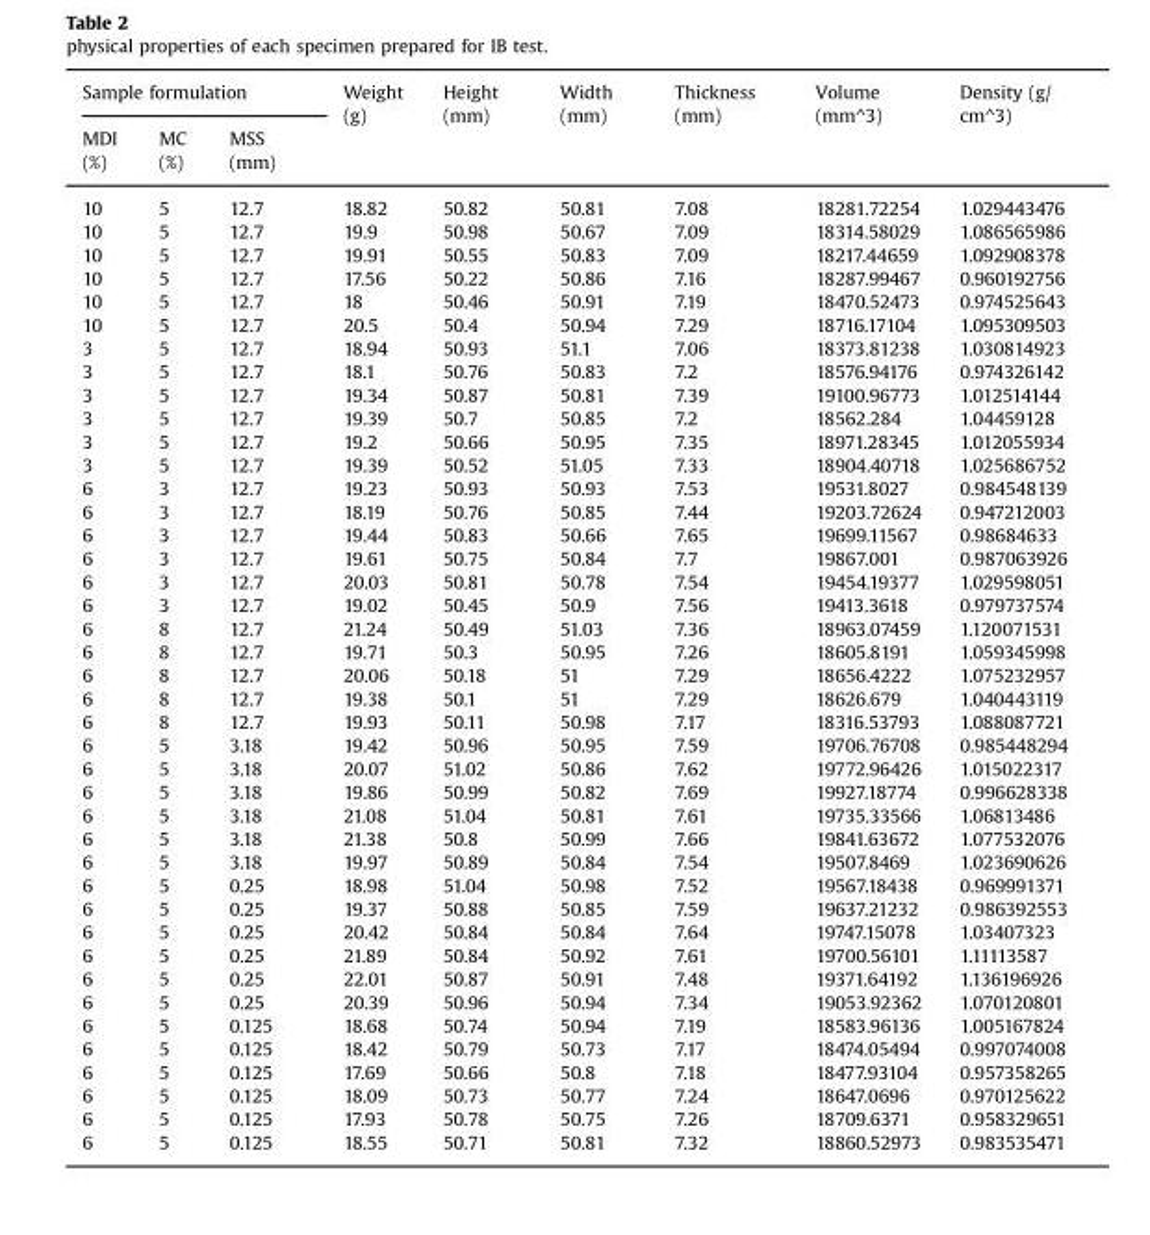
<table><thead><tr><td colspan="3">Sample formulation</td><td rowspan="2">Weight (g)</td><td rowspan="2">Height (mm)</td><td rowspan="2">Width (mm)</td><td rowspan="2">Thickness (mm)</td><td rowspan="2">Volume (mm^3)</td><td rowspan="2">Density (g/ cm^3)</td></tr><tr><td>MDI (%)</td><td>MC (%)</td><td>MSS (mm)</td></tr></thead><tbody><tr><td>10</td><td>5</td><td>12.7</td><td>18.82</td><td>50.82</td><td>50.81</td><td>7.08</td><td>18281.72254</td><td>1.029443476</td></tr><tr><td>10</td><td>5</td><td>12.7</td><td>19.9</td><td>50.98</td><td>50.67</td><td>7.09</td><td>18314.58029</td><td>1.086565986</td></tr><tr><td>10</td><td>5</td><td>12.7</td><td>19.91</td><td>50.55</td><td>50.83</td><td>7.09</td><td>18217.44659</td><td>1.092908378</td></tr><tr><td>10</td><td>5</td><td>12.7</td><td>17.56</td><td>50.22</td><td>50.86</td><td>7.16</td><td>18287.99467</td><td>0.960192756</td></tr><tr><td>10</td><td>5</td><td>12.7</td><td>18</td><td>50.46</td><td>50.91</td><td>7.19</td><td>18470.52473</td><td>0.974525643</td></tr><tr><td>10</td><td>5</td><td>12.7</td><td>20.5</td><td>50.4</td><td>50.94</td><td>7.29</td><td>18716.17104</td><td>1.095309503</td></tr><tr><td>3</td><td>5</td><td>12.7</td><td>18.94</td><td>50.93</td><td>51.1</td><td>7.06</td><td>18373.81238</td><td>1.030814923</td></tr><tr><td>3</td><td>5</td><td>12.7</td><td>18.1</td><td>50.76</td><td>50.83</td><td>7.2</td><td>18576.94176</td><td>0.974326142</td></tr><tr><td>3</td><td>5</td><td>12.7</td><td>19.34</td><td>50.87</td><td>50.81</td><td>7.39</td><td>19100.96773</td><td>1.012514144</td></tr><tr><td>3</td><td>5</td><td>12.7</td><td>19.39</td><td>50.7</td><td>50.85</td><td>7.2</td><td>18562.284</td><td>1.04459128</td></tr><tr><td>3</td><td>5</td><td>12.7</td><td>19.2</td><td>50.66</td><td>50.95</td><td>7.35</td><td>18971.28345</td><td>1.012055934</td></tr><tr><td>3</td><td>5</td><td>12.7</td><td>19.39</td><td>50.52</td><td>51.05</td><td>7.33</td><td>18904.40718</td><td>1.025686752</td></tr><tr><td>6</td><td>3</td><td>12.7</td><td>19.23</td><td>50.93</td><td>50.93</td><td>7.53</td><td>19531.8027</td><td>0.984548139</td></tr><tr><td>6</td><td>3</td><td>12.7</td><td>18.19</td><td>50.76</td><td>50.85</td><td>7.44</td><td>19203.72624</td><td>0.947212003</td></tr><tr><td>6</td><td>3</td><td>12.7</td><td>19.44</td><td>50.83</td><td>50.66</td><td>7.65</td><td>19699.11567</td><td>0.98684633</td></tr><tr><td>6</td><td>3</td><td>12.7</td><td>19.61</td><td>50.75</td><td>50.84</td><td>7.7</td><td>19867.001</td><td>0.987063926</td></tr><tr><td>6</td><td>3</td><td>12.7</td><td>20.03</td><td>50.81</td><td>50.78</td><td>7.54</td><td>19454.19377</td><td>1.029598051</td></tr><tr><td>6</td><td>3</td><td>12.7</td><td>19.02</td><td>50.45</td><td>50.9</td><td>7.56</td><td>19413.3618</td><td>0.979737574</td></tr><tr><td>6</td><td>8</td><td>12.7</td><td>21.24</td><td>50.49</td><td>51.03</td><td>7.36</td><td>18963.07459</td><td>1.120071531</td></tr><tr><td>6</td><td>8</td><td>12.7</td><td>19.71</td><td>50.3</td><td>50.95</td><td>7.26</td><td>18605.8191</td><td>1.059345998</td></tr><tr><td>6</td><td>8</td><td>12.7</td><td>20.06</td><td>50.18</td><td>51</td><td>7.29</td><td>18656.4222</td><td>1.075232957</td></tr><tr><td>6</td><td>8</td><td>12.7</td><td>19.38</td><td>50.1</td><td>51</td><td>7.29</td><td>18626.679</td><td>1.040443119</td></tr><tr><td>6</td><td>8</td><td>12.7</td><td>19.93</td><td>50.11</td><td>50.98</td><td>7.17</td><td>18316.53793</td><td>1.088087721</td></tr><tr><td>6</td><td>5</td><td>3.18</td><td>19.42</td><td>50.96</td><td>50.95</td><td>7.59</td><td>19706.76708</td><td>0.985448294</td></tr><tr><td>6</td><td>5</td><td>3.18</td><td>20.07</td><td>51.02</td><td>50.86</td><td>7.62</td><td>19772.96426</td><td>1.015022317</td></tr><tr><td>6</td><td>5</td><td>3.18</td><td>19.86</td><td>50.99</td><td>50.82</td><td>7.69</td><td>19927.18774</td><td>0.996628338</td></tr><tr><td>6</td><td>5</td><td>3.18</td><td>21.08</td><td>51.04</td><td>50.81</td><td>7.61</td><td>19735.33566</td><td>1.06813486</td></tr><tr><td>6</td><td>5</td><td>3.18</td><td>21.38</td><td>50.8</td><td>50.99</td><td>7.66</td><td>19841.63672</td><td>1.077532076</td></tr><tr><td>6</td><td>5</td><td>3.18</td><td>19.97</td><td>50.89</td><td>50.84</td><td>7.54</td><td>19507.8469</td><td>1.023690626</td></tr><tr><td>6</td><td>5</td><td>0.25</td><td>18.98</td><td>51.04</td><td>50.98</td><td>7.52</td><td>19567.18438</td><td>0.969991371</td></tr><tr><td>6</td><td>5</td><td>0.25</td><td>19.37</td><td>50.88</td><td>50.85</td><td>7.59</td><td>19637.21232</td><td>0.986392553</td></tr><tr><td>6</td><td>5</td><td>0.25</td><td>20.42</td><td>50.84</td><td>50.84</td><td>7.64</td><td>19747.15078</td><td>1.03407323</td></tr><tr><td>6</td><td>5</td><td>0.25</td><td>21.89</td><td>50.84</td><td>50.92</td><td>7.61</td><td>19700.56101</td><td>1.11113587</td></tr><tr><td>6</td><td>5</td><td>0.25</td><td>22.01</td><td>50.87</td><td>50.91</td><td>7.48</td><td>19371.64192</td><td>1.136196926</td></tr><tr><td>6</td><td>5</td><td>0.25</td><td>20.39</td><td>50.96</td><td>50.94</td><td>7.34</td><td>19053.92362</td><td>1.070120801</td></tr><tr><td>6</td><td>5</td><td>0.125</td><td>18.68</td><td>50.74</td><td>50.94</td><td>7.19</td><td>18583.96136</td><td>1.005167824</td></tr><tr><td>6</td><td>5</td><td>0.125</td><td>18.42</td><td>50.79</td><td>50.73</td><td>7.17</td><td>18474.05494</td><td>0.997074008</td></tr><tr><td>6</td><td>5</td><td>0.125</td><td>17.69</td><td>50.66</td><td>50.8</td><td>7.18</td><td>18477.93104</td><td>0.957358265</td></tr><tr><td>6</td><td>5</td><td>0.125</td><td>18.09</td><td>50.73</td><td>50.77</td><td>7.24</td><td>18647.0696</td><td>0.970125622</td></tr><tr><td>6</td><td>5</td><td>0.125</td><td>17.93</td><td>50.78</td><td>50.75</td><td>7.26</td><td>18709.6371</td><td>0.958329651</td></tr><tr><td>6</td><td>5</td><td>0.125</td><td>18.55</td><td>50.71</td><td>50.81</td><td>7.32</td><td>18860.52973</td><td>0.983535471</td></tr></tbody></table>